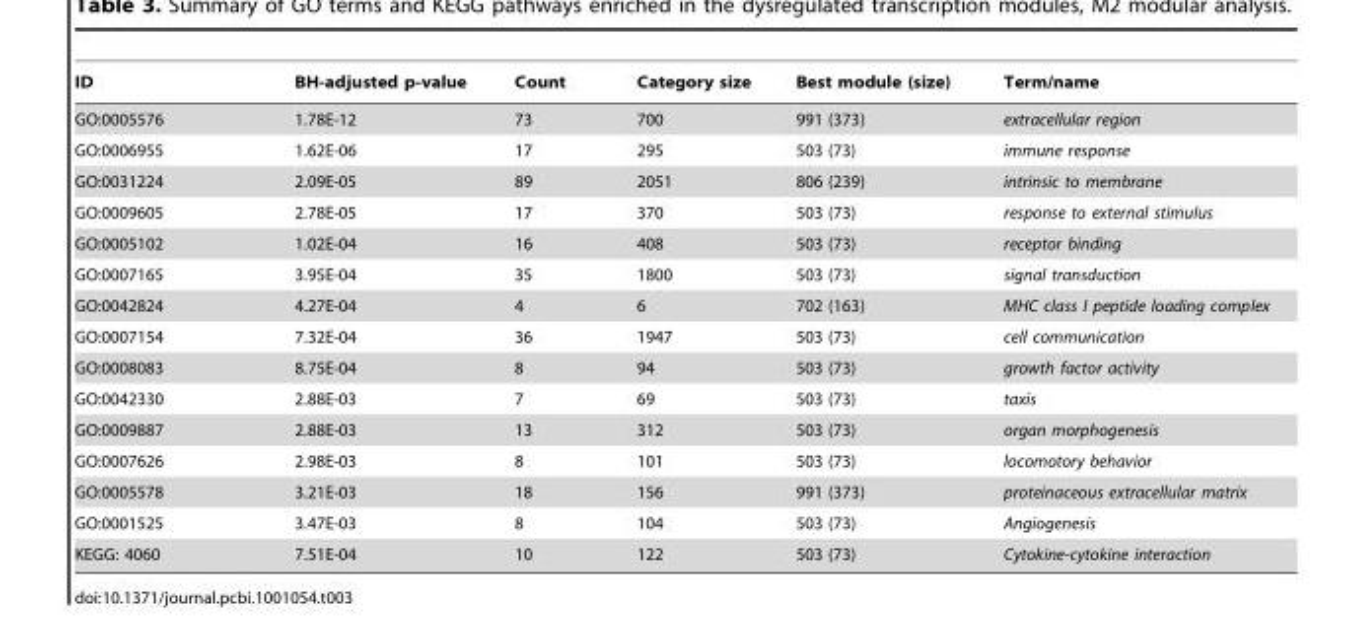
<table><thead><tr><td>ID</td><td>BH-adjusted p-value</td><td>Count</td><td>Category size</td><td>Best module (size)</td><td>Term/name</td></tr></thead><tbody><tr><td>GO:0005576</td><td>1.78E-12</td><td>73</td><td>700</td><td>991 (373)</td><td>extracellular region</td></tr><tr><td>GO:0006955</td><td>1.62E-06</td><td>17</td><td>295</td><td>503 (73)</td><td>immune response</td></tr><tr><td>GO:0031224</td><td>2.09E-05</td><td>89</td><td>2051</td><td>806 (239)</td><td>intrinsic to membrane</td></tr><tr><td>GO:0009605</td><td>2.78E-05</td><td>17</td><td>370</td><td>503 (73)</td><td>response to external stimulus</td></tr><tr><td>GO:0005102</td><td>1.02E-04</td><td>16</td><td>408</td><td>503 (73)</td><td>receptor binding</td></tr><tr><td>GO:0007165</td><td>3.95E-04</td><td>35</td><td>1800</td><td>503 (73)</td><td>signal transduction</td></tr><tr><td>GO:0042824</td><td>4.27E-04</td><td>4</td><td>6</td><td>702 (163)</td><td>MHC class I peptide loading complex</td></tr><tr><td>GO:0007154</td><td>7.32E-04</td><td>36</td><td>1947</td><td>503 (73)</td><td>cell communication</td></tr><tr><td>GO:0008083</td><td>8.75E-04</td><td>8</td><td>94</td><td>503 (73)</td><td>growth factor activity</td></tr><tr><td>GO:0042330</td><td>2.88E-03</td><td>7</td><td>69</td><td>503 (73)</td><td>taxis</td></tr><tr><td>GO:0009887</td><td>2.88E-03</td><td>13</td><td>312</td><td>503 (73)</td><td>organ morphogenesis</td></tr><tr><td>GO:0007626</td><td>2.98E-03</td><td>8</td><td>101</td><td>503 (73)</td><td>locomotory behavior</td></tr><tr><td>GO:0005578</td><td>3.21E-03</td><td>18</td><td>156</td><td>991 (373)</td><td>proteinaceous extracellular matrix</td></tr><tr><td>GO:0001525</td><td>3.47E-03</td><td>8</td><td>104</td><td>503 (73)</td><td>Angiogenesis</td></tr><tr><td>KEGG: 4060</td><td>7.51E-04</td><td>10</td><td>122</td><td>503 (73)</td><td>Cytokine-cytokine interaction</td></tr></tbody></table>